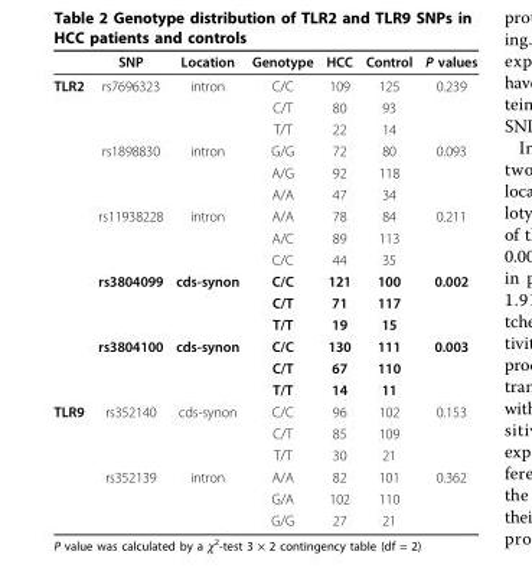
<table><thead><tr><td></td><td>SNP</td><td>Location</td><td>Genotype</td><td>HCC</td><td>Control</td><td>P values</td></tr></thead><tbody><tr><td rowspan="15">TLR2</td><td>rs7696323</td><td>intron</td><td>C/C</td><td>109</td><td>125</td><td>0.239</td></tr><tr><td></td><td></td><td>C/T</td><td>80</td><td>93</td><td></td></tr><tr><td></td><td></td><td>T/T</td><td>22</td><td>14</td><td></td></tr><tr><td>rs1898830</td><td>intron</td><td>G/G</td><td>72</td><td>80</td><td>0.093</td></tr><tr><td></td><td></td><td>A/G</td><td>92</td><td>118</td><td></td></tr><tr><td></td><td></td><td>A/A</td><td>47</td><td>34</td><td></td></tr><tr><td>rs11938228</td><td>intron</td><td>A/A</td><td>78</td><td>84</td><td>0.211</td></tr><tr><td></td><td></td><td>A/C</td><td>89</td><td>113</td><td></td></tr><tr><td></td><td></td><td>C/C</td><td>44</td><td>35</td><td></td></tr><tr><td>rs3804099</td><td>cds-synon</td><td>C/C</td><td>121</td><td>100</td><td>0.002</td></tr><tr><td></td><td></td><td>C/T</td><td>71</td><td>117</td><td></td></tr><tr><td></td><td></td><td>T/T</td><td>19</td><td>15</td><td></td></tr><tr><td>rs3804100</td><td>cds-synon</td><td>C/C</td><td>130</td><td>111</td><td>0.003</td></tr><tr><td></td><td></td><td>C/T</td><td>67</td><td>110</td><td></td></tr><tr><td></td><td></td><td>T/T</td><td>14</td><td>11</td><td></td></tr><tr><td rowspan="6">TLR9</td><td>rs352140</td><td>cds-synon</td><td>C/C</td><td>96</td><td>102</td><td>0.153</td></tr><tr><td></td><td></td><td>C/T</td><td>85</td><td>109</td><td></td></tr><tr><td></td><td></td><td>T/T</td><td>30</td><td>21</td><td></td></tr><tr><td>rs352139</td><td>intron</td><td>A/A</td><td>82</td><td>101</td><td>0.362</td></tr><tr><td></td><td></td><td>G/A</td><td>102</td><td>110</td><td></td></tr><tr><td></td><td></td><td>G/G</td><td>27</td><td>21</td><td></td></tr></tbody></table>